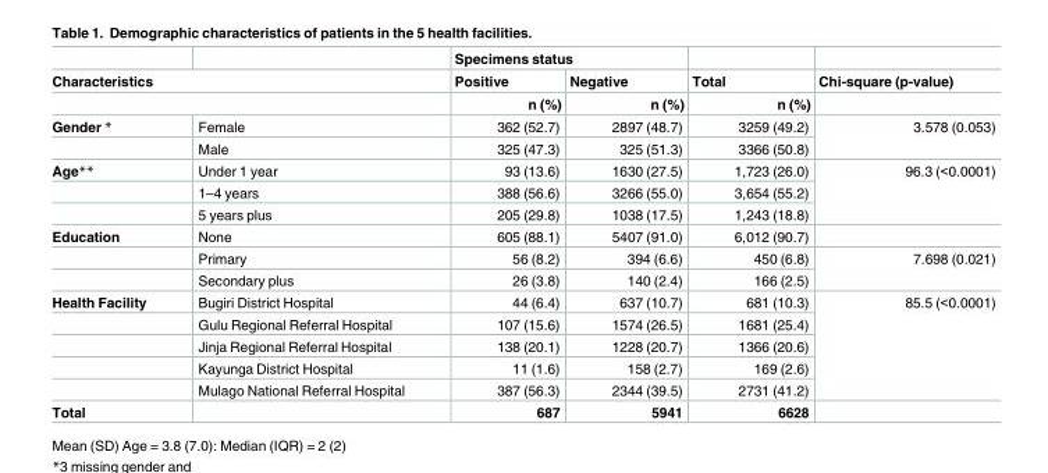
<table><thead><tr><td></td><td></td><td colspan="2">Specimens status</td><td rowspan="3">Total n (%)</td><td rowspan="3">Chi-square (p-value)</td></tr><tr><td colspan="2">Characteristics</td><td rowspan="2">Positive n (%)</td><td rowspan="2">Negative n (%)</td></tr><tr><td></td><td></td></tr></thead><tbody><tr><td rowspan="2">Gender *</td><td>Female</td><td>362 (52.7)</td><td>2897 (48.7)</td><td>3259 (49.2)</td><td rowspan="2">3.578 (0.053)</td></tr><tr><td>Male</td><td>325 (47.3)</td><td>325 (51.3)</td><td>3366 (50.8)</td></tr><tr><td rowspan="3">Age**</td><td>Under 1 year</td><td>93 (13.6)</td><td>1630 (27.5)</td><td>1,723 (26.0)</td><td rowspan="3">96.3 (&lt;0.0001)</td></tr><tr><td>1–4 years</td><td>388 (56.6)</td><td>3266 (55.0)</td><td>3,654 (55.2)</td></tr><tr><td>5 years plus</td><td>205 (29.8)</td><td>1038 (17.5)</td><td>1,243 (18.8)</td></tr><tr><td rowspan="3">Education</td><td>None</td><td>605 (88.1)</td><td>5407 (91.0)</td><td>6,012 (90.7)</td><td></td></tr><tr><td>Primary</td><td>56 (8.2)</td><td>394 (6.6)</td><td>450 (6.8)</td><td rowspan="2">7.698 (0.021)</td></tr><tr><td>Secondary plus</td><td>26 (3.8)</td><td>140 (2.4)</td><td>166 (2.5)</td></tr><tr><td rowspan="5">Health Facility</td><td>Bugiri District Hospital</td><td>44 (6.4)</td><td>637 (10.7)</td><td>681 (10.3)</td><td rowspan="5">85.5 (&lt;0.0001)</td></tr><tr><td>Gulu Regional Referral Hospital</td><td>107 (15.6)</td><td>1574 (26.5)</td><td>1681 (25.4)</td></tr><tr><td>Jinja Regional Referral Hospital</td><td>138 (20.1)</td><td>1228 (20.7)</td><td>1366 (20.6)</td></tr><tr><td>Kayunga District Hospital</td><td>11 (1.6)</td><td>158 (2.7)</td><td>169 (2.6)</td></tr><tr><td>Mulago National Referral Hospital</td><td>387 (56.3)</td><td>2344 (39.5)</td><td>2731 (41.2)</td></tr><tr><td>Total</td><td></td><td>687</td><td>5941</td><td>6628</td><td></td></tr></tbody></table>